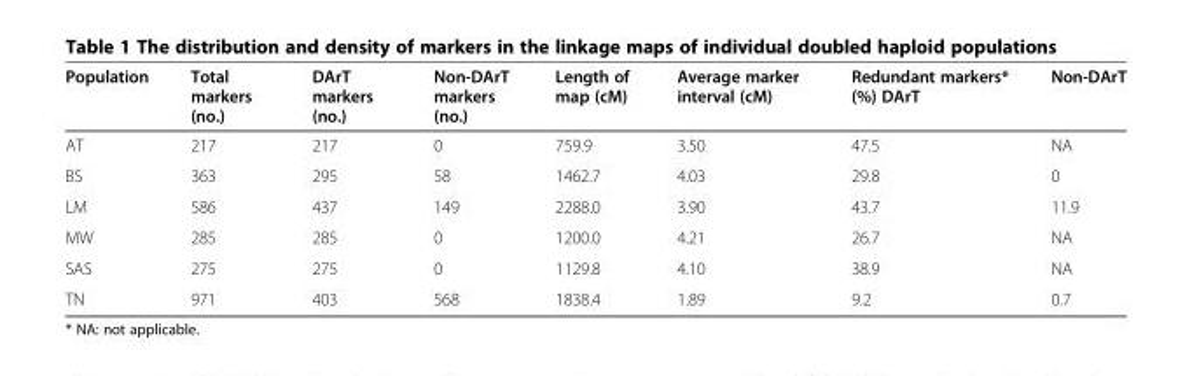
<table><thead><tr><td>Population</td><td>Total markers (no.)</td><td>DArT markers (no.)</td><td>Non-DArT markers (no.)</td><td>Length of map (cM)</td><td>Average marker interval (cM)</td><td>Redundant markers* (%) DArT</td><td>Non-DArT</td></tr></thead><tbody><tr><td>AT</td><td>217</td><td>217</td><td>0</td><td>759.9</td><td>3.50</td><td>47.5</td><td>NA</td></tr><tr><td>BS</td><td>363</td><td>295</td><td>58</td><td>1462.7</td><td>4.03</td><td>29.8</td><td>0</td></tr><tr><td>LM</td><td>586</td><td>437</td><td>149</td><td>2288.0</td><td>3.90</td><td>43.7</td><td>11.9</td></tr><tr><td>MW</td><td>285</td><td>285</td><td>0</td><td>1200.0</td><td>4.21</td><td>26.7</td><td>NA</td></tr><tr><td>SAS</td><td>275</td><td>275</td><td>0</td><td>1129.8</td><td>4.10</td><td>38.9</td><td>NA</td></tr><tr><td>TN</td><td>971</td><td>403</td><td>568</td><td>1838.4</td><td>1.89</td><td>9.2</td><td>0.7</td></tr></tbody></table>